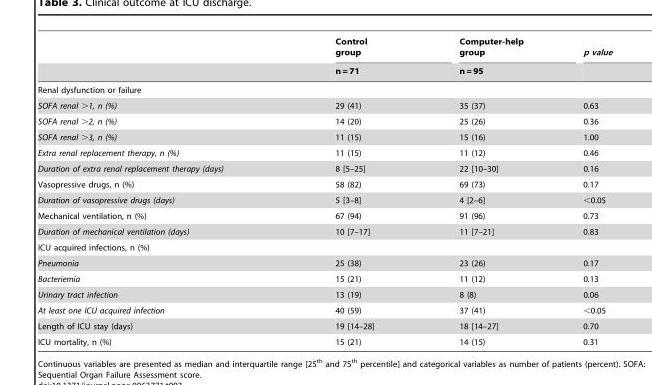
<table><thead><tr><td rowspan="2"></td><td rowspan="2">Control group n = 71</td><td rowspan="2">Computer-help group n = 95</td><td rowspan="2">p value</td></tr><tr></tr></thead><tbody><tr><td colspan="4">Renal dysfunction or failure</td></tr><tr><td>SOFA renal &gt;1, n (%)</td><td>29 (41)</td><td>35 (37)</td><td>0.63</td></tr><tr><td>SOFA renal &gt;2, n (%)</td><td>14 (20)</td><td>25 (26)</td><td>0.36</td></tr><tr><td>SOFA renal &gt;3, n (%)</td><td>11 (15)</td><td>15 (16)</td><td>1.00</td></tr><tr><td>Extra renal replacement therapy, n (%)</td><td>11 (15)</td><td>11 (12)</td><td>0.46</td></tr><tr><td>Duration of extra renal replacement therapy (days)</td><td>8 [5–25]</td><td>22 [10–30]</td><td>0.16</td></tr><tr><td>Vasopressive drugs, n (%)</td><td>58 (82)</td><td>69 (73)</td><td>0.17</td></tr><tr><td>Duration of vasopressive drugs (days)</td><td>5 [3–8]</td><td>4 [2–6]</td><td>&lt;0.05</td></tr><tr><td>Mechanical ventilation, n (%)</td><td>67 (94)</td><td>91 (96)</td><td>0.73</td></tr><tr><td>Duration of mechanical ventilation (days)</td><td>10 [7–17]</td><td>11 [7–21]</td><td>0.83</td></tr><tr><td colspan="4">ICU acquired infections, n (%)</td></tr><tr><td>Pneumonia</td><td>25 (38)</td><td>23 (26)</td><td>0.17</td></tr><tr><td>Bacteriemia</td><td>15 (21)</td><td>11 (12)</td><td>0.13</td></tr><tr><td>Urinary tract infection</td><td>13 (19)</td><td>8 (8)</td><td>0.06</td></tr><tr><td>At least one ICU acquired infection</td><td>40 (59)</td><td>37 (41)</td><td>&lt;0.05</td></tr><tr><td>Length of ICU stay (days)</td><td>19 [14–28]</td><td>18 [14–27]</td><td>0.70</td></tr><tr><td>ICU mortality, n (%)</td><td>15 (21)</td><td>14 (15)</td><td>0.31</td></tr></tbody></table>